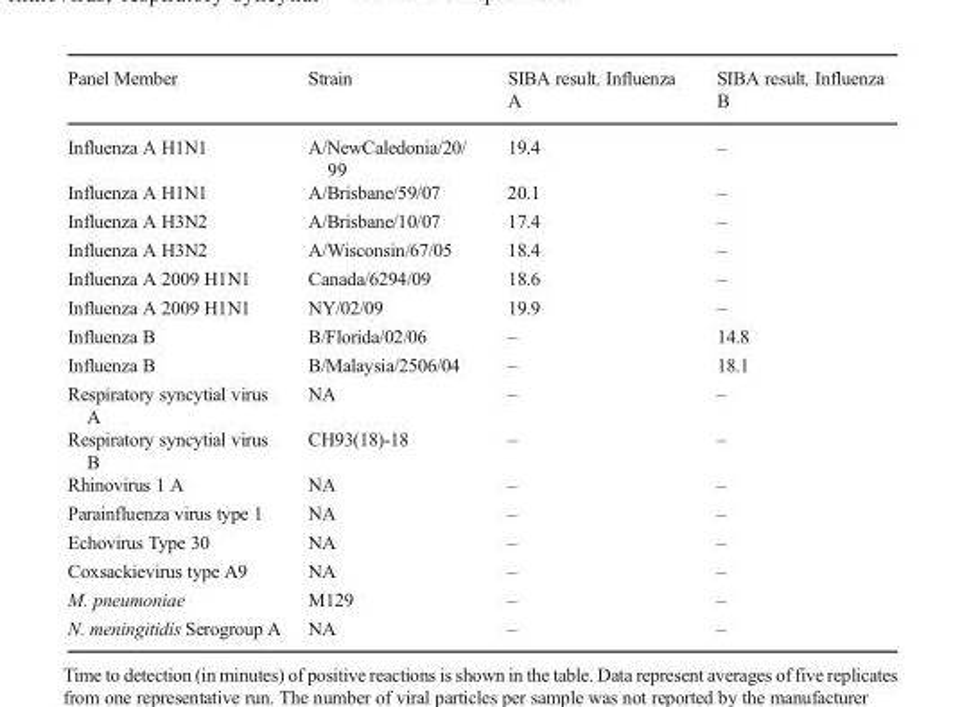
<table><thead><tr><td>Panel Member</td><td>Strain</td><td>SIBA result, Influenza A</td><td>SIBA result, Influenza B</td></tr></thead><tbody><tr><td>Influenza A H1N1</td><td>A/NewCaledonia/20/ 99</td><td>19.4</td><td>–</td></tr><tr><td>Influenza A H1N1</td><td>A/Brisbane/59/07</td><td>20.1</td><td>–</td></tr><tr><td>Influenza A H3N2</td><td>A/Brisbane/10/07</td><td>17.4</td><td>–</td></tr><tr><td>Influenza A H3N2</td><td>A/Wisconsin/67/05</td><td>18.4</td><td>–</td></tr><tr><td>Influenza A 2009 H1N1</td><td>Canada/6294/09</td><td>18.6</td><td>–</td></tr><tr><td>Influenza A 2009 H1N1</td><td>NY/02/09</td><td>19.9</td><td>–</td></tr><tr><td>Influenza B</td><td>B/Florida/02/06</td><td>–</td><td>14.8</td></tr><tr><td>Influenza B</td><td>B/Malaysia/2506/04</td><td>–</td><td>18.1</td></tr><tr><td>Respiratory syncytial virus A</td><td>NA</td><td>–</td><td>–</td></tr><tr><td>Respiratory syncytial virus B</td><td>CH93(18)-18</td><td>–</td><td>–</td></tr><tr><td>Rhinovirus 1 A</td><td>NA</td><td>–</td><td>–</td></tr><tr><td>Parainfluenza virus type 1</td><td>NA</td><td>–</td><td>–</td></tr><tr><td>Echovirus Type 30</td><td>NA</td><td>–</td><td>–</td></tr><tr><td>Coxsackievirus type A9</td><td>NA</td><td>–</td><td>–</td></tr><tr><td>M. pneumoniae</td><td>M129</td><td>–</td><td>–</td></tr><tr><td>N. meningitidis Serogroup A</td><td>NA</td><td>–</td><td>–</td></tr></tbody></table>